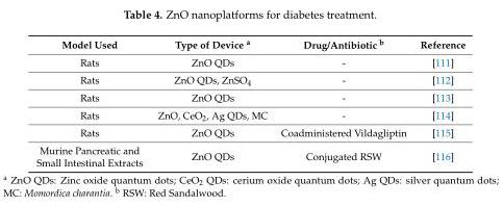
<table><thead><tr><td>Model Used</td><td>Type of Device <sup>a</sup></td><td>Drug/Antibiotic <sup>b</sup></td><td>Reference</td></tr></thead><tbody><tr><td>Rats</td><td>ZnO QDs</td><td>-</td><td>[111]</td></tr><tr><td>Rats</td><td>ZnO QDs, ZnSO<sub>4</sub></td><td>-</td><td>[112]</td></tr><tr><td>Rats</td><td>ZnO QDs</td><td>-</td><td>[113]</td></tr><tr><td>Rats</td><td>ZnO, CeO<sub>2</sub>, Ag QDs, MC</td><td>-</td><td>[114]</td></tr><tr><td>Rats</td><td>ZnO QDs</td><td>Coadministered Vildagliptin</td><td>[115]</td></tr><tr><td>Murine Pancreatic and Small Intestinal Extracts</td><td>ZnO QDs</td><td>Conjugated RSW</td><td>[116]</td></tr></tbody></table>